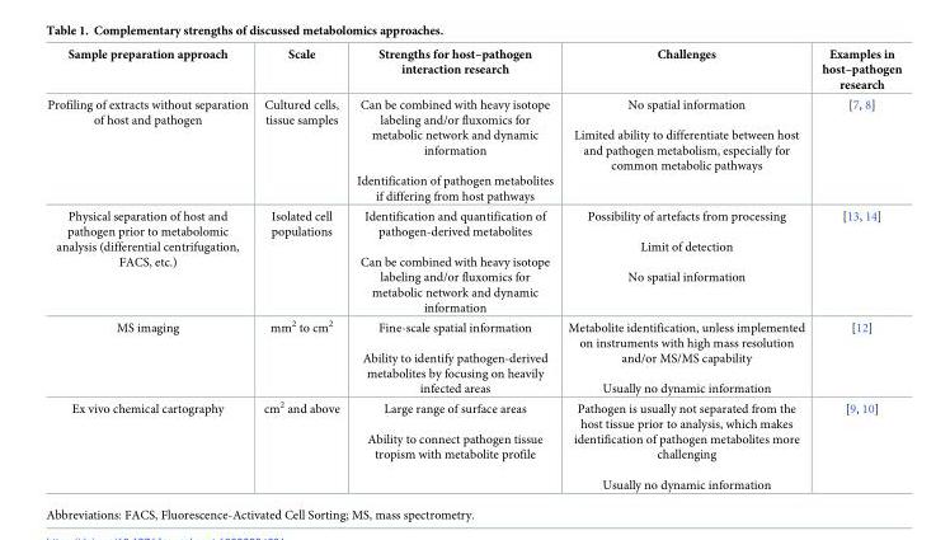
<table><thead><tr><td>Sample preparation approach</td><td>Scale</td><td>Strengths for host–pathogen interaction research</td><td>Challenges</td><td>Examples in host–pathogen research</td></tr></thead><tbody><tr><td>Profiling of extracts without separation of host and pathogen</td><td>Cultured cells, tissue samples</td><td>Can be combined with heavy isotope labeling and/or fluxomics for metabolic network and dynamic information Identification of pathogen metabolites if differing from host pathways</td><td>No spatial information Limited ability to differentiate between host and pathogen metabolism, especially for common metabolic pathways</td><td>[7, 8]</td></tr><tr><td>Physical separation of host and pathogen prior to metabolomic analysis (differential centrifugation, FACS, etc.)</td><td>Isolated cell populations</td><td>Identification and quantification of pathogen-derived metabolites Can be combined with heavy isotope labeling and/or fluxomics for metabolic network and dynamic information</td><td>Possibility of artefacts from processing Limit of detection No spatial information</td><td>[13, 14]</td></tr><tr><td>MS imaging</td><td>mm<sup>2</sup> to cm<sup>2</sup></td><td>Fine-scale spatial information Ability to identify pathogen-derived metabolites by focusing on heavily infected areas</td><td>Metabolite identification, unless implemented on instruments with high mass resolution and/or MS/MS capability Usually no dynamic information</td><td>[12]</td></tr><tr><td>Ex vivo chemical cartography</td><td>cm<sup>2</sup> and above</td><td>Large range of surface areas Ability to connect pathogen tissue tropism with metabolite profile</td><td>Pathogen is usually not separated from the host tissue prior to analysis, which makes identification of pathogen metabolites more challenging Usually no dynamic information</td><td>[9, 10]</td></tr></tbody></table>